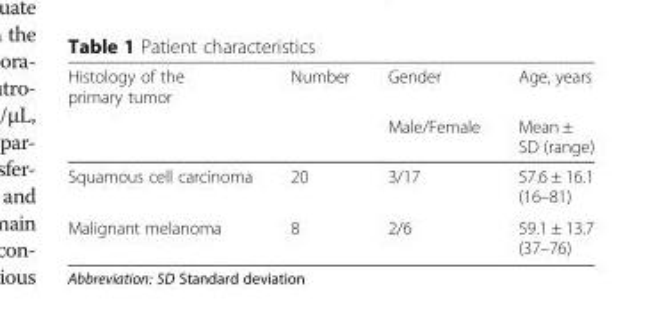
<table><thead><tr><td rowspan="2">Histology of the primary tumor</td><td rowspan="2">Number</td><td rowspan="2">Gender Male/Female</td><td rowspan="2">Age, years Mean ± SD (range)</td></tr><tr></tr></thead><tbody><tr><td>Squamous cell carcinoma</td><td>20</td><td>3/17</td><td>57.6 ± 16.1 (16–81)</td></tr><tr><td>Malignant melanoma</td><td>8</td><td>2/6</td><td>59.1 ± 13.7 (37–76)</td></tr></tbody></table>